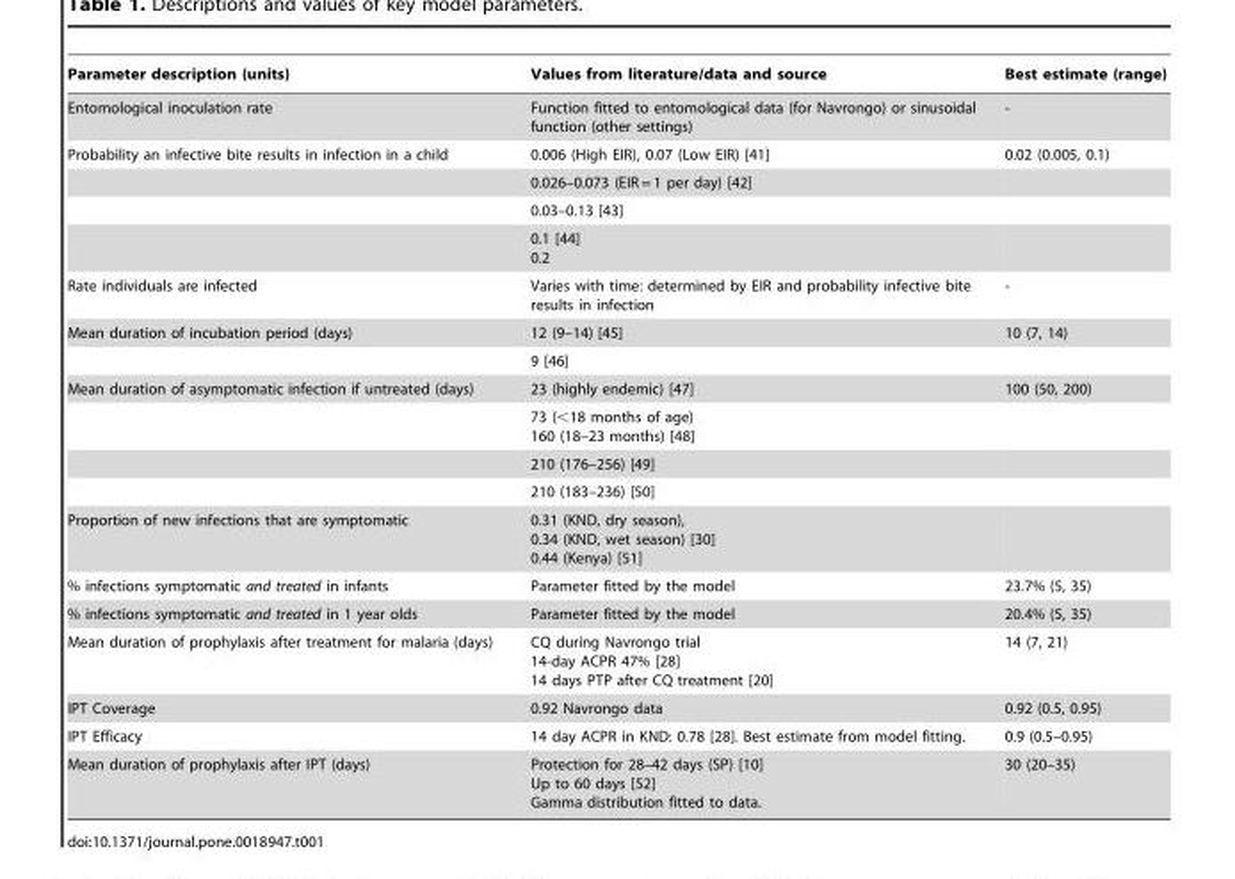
<table><thead><tr><td>Parameter description (units)</td><td>Values from literature/data and source</td><td>Best estimate (range)</td></tr></thead><tbody><tr><td>Entomological inoculation rate</td><td>Function fitted to entomological data (for Navrongo) or sinusoidal function (other settings)</td><td>-</td></tr><tr><td rowspan="4">Probability an infective bite results in infection in a child</td><td>0.006 (High EIR), 0.07 (Low EIR) [41]</td><td>0.02 (0.005, 0.1)</td></tr><tr><td>0.026–0.073 (EIR = 1 per day) [42]</td><td></td></tr><tr><td>0.03–0.13 [43]</td><td></td></tr><tr><td>0.1 [44] 0.2</td><td></td></tr><tr><td>Rate individuals are infected</td><td>Varies with time: determined by EIR and probability infective bite results in infection</td><td>-</td></tr><tr><td rowspan="2">Mean duration of incubation period (days)</td><td>12 (9–14) [45]</td><td>10 (7, 14)</td></tr><tr><td>9 [46]</td><td></td></tr><tr><td rowspan="4">Mean duration of asymptomatic infection if untreated (days)</td><td>23 (highly endemic) [47]</td><td>100 (50, 200)</td></tr><tr><td>73 (&lt;18 months of age) 160 (18–23 months) [48]</td><td></td></tr><tr><td>210 (176–256) [49]</td><td></td></tr><tr><td>210 (183–236) [50]</td><td></td></tr><tr><td>Proportion of new infections that are symptomatic</td><td>0.31 (KND, dry season), 0.34 (KND, wet season) [30] 0.44 (Kenya) [51]</td><td></td></tr><tr><td>% infections symptomatic and treated in infants</td><td>Parameter fitted by the model</td><td>23.7% (5, 35)</td></tr><tr><td>% infections symptomatic and treated in 1 year olds</td><td>Parameter fitted by the model</td><td>20.4% (5, 35)</td></tr><tr><td>Mean duration of prophylaxis after treatment for malaria (days)</td><td>CQ during Navrongo trial 14-day ACPR 47% [28] 14 days PTP after CQ treatment [20]</td><td>14 (7, 21)</td></tr><tr><td>IPT Coverage</td><td>0.92 Navrongo data</td><td>0.92 (0.5, 0.95)</td></tr><tr><td>IPT Efficacy</td><td>14 day ACPR in KND: 0.78 [28]. Best estimate from model fitting.</td><td>0.9 (0.5–0.95)</td></tr><tr><td>Mean duration of prophylaxis after IPT (days)</td><td>Protection for 28–42 days (SP) [10] Up to 60 days [52] Gamma distribution fitted to data.</td><td>30 (20–35)</td></tr></tbody></table>